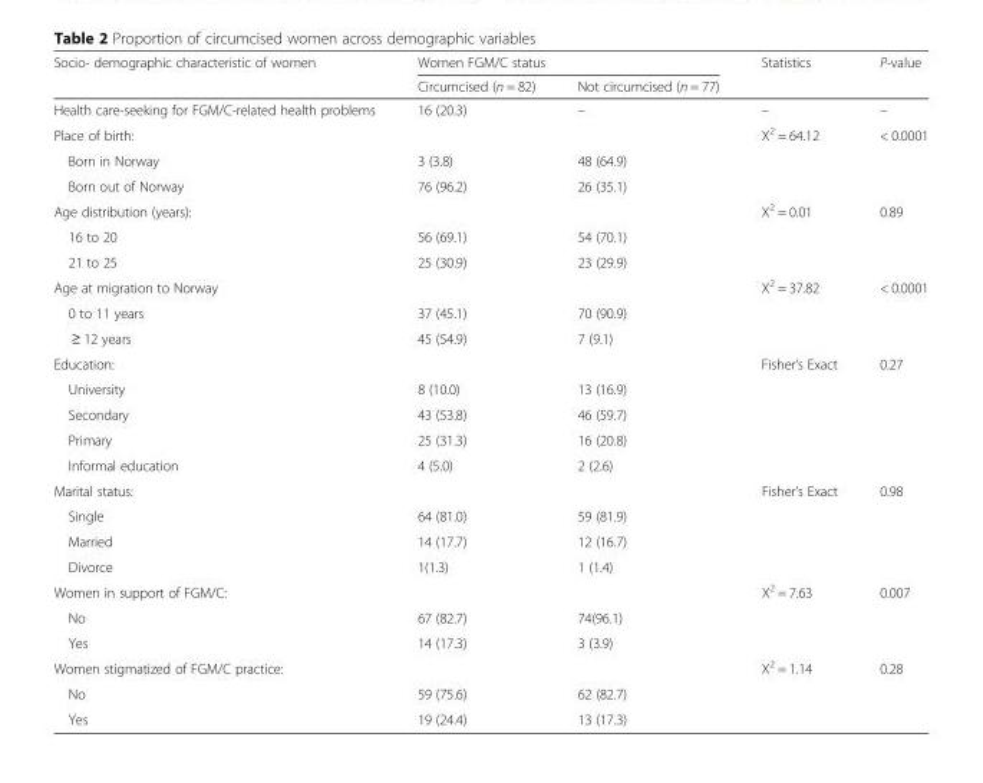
<table><thead><tr><td rowspan="2">Socio- demographic characteristic of women</td><td colspan="2">Women FGM/C status</td><td rowspan="2">Statistics</td><td rowspan="2">P-value</td></tr><tr><td>Circumcised (n = 82)</td><td>Not circumcised (n = 77)</td></tr></thead><tbody><tr><td>Health care-seeking for FGM/C-related health problems</td><td>16 (20.3)</td><td>–</td><td>–</td><td>–</td></tr><tr><td>Place of birth:</td><td></td><td></td><td>X<sup>2</sup> = 64.12</td><td>&lt; 0.0001</td></tr><tr><td>Born in Norway</td><td>3 (3.8)</td><td>48 (64.9)</td><td></td><td></td></tr><tr><td>Born out of Norway</td><td>76 (96.2)</td><td>26 (35.1)</td><td></td><td></td></tr><tr><td>Age distribution (years):</td><td></td><td></td><td>X<sup>2</sup> = 0.01</td><td>0.89</td></tr><tr><td>16 to 20</td><td>56 (69.1)</td><td>54 (70.1)</td><td></td><td></td></tr><tr><td>21 to 25</td><td>25 (30.9)</td><td>23 (29.9)</td><td></td><td></td></tr><tr><td>Age at migration to Norway</td><td></td><td></td><td>X<sup>2</sup> = 37.82</td><td>&lt; 0.0001</td></tr><tr><td>0 to 11 years</td><td>37 (45.1)</td><td>70 (90.9)</td><td></td><td></td></tr><tr><td>≥ 12 years</td><td>45 (54.9)</td><td>7 (9.1)</td><td></td><td></td></tr><tr><td>Education:</td><td></td><td></td><td>Fisher’s Exact</td><td>0.27</td></tr><tr><td>University</td><td>8 (10.0)</td><td>13 (16.9)</td><td></td><td></td></tr><tr><td>Secondary</td><td>43 (53.8)</td><td>46 (59.7)</td><td></td><td></td></tr><tr><td>Primary</td><td>25 (31.3)</td><td>16 (20.8)</td><td></td><td></td></tr><tr><td>Informal education</td><td>4 (5.0)</td><td>2 (2.6)</td><td></td><td></td></tr><tr><td>Marital status:</td><td></td><td></td><td>Fisher’s Exact</td><td>0.98</td></tr><tr><td>Single</td><td>64 (81.0)</td><td>59 (81.9)</td><td></td><td></td></tr><tr><td>Married</td><td>14 (17.7)</td><td>12 (16.7)</td><td></td><td></td></tr><tr><td>Divorce</td><td>1(1.3)</td><td>1 (1.4)</td><td></td><td></td></tr><tr><td>Women in support of FGM/C:</td><td></td><td></td><td>X<sup>2</sup> = 7.63</td><td>0.007</td></tr><tr><td>No</td><td>67 (82.7)</td><td>74(96.1)</td><td></td><td></td></tr><tr><td>Yes</td><td>14 (17.3)</td><td>3 (3.9)</td><td></td><td></td></tr><tr><td>Women stigmatized of FGM/C practice:</td><td></td><td></td><td>X<sup>2</sup> = 1.14</td><td>0.28</td></tr><tr><td>No</td><td>59 (75.6)</td><td>62 (82.7)</td><td></td><td></td></tr><tr><td>Yes</td><td>19 (24.4)</td><td>13 (17.3)</td><td></td><td></td></tr></tbody></table>